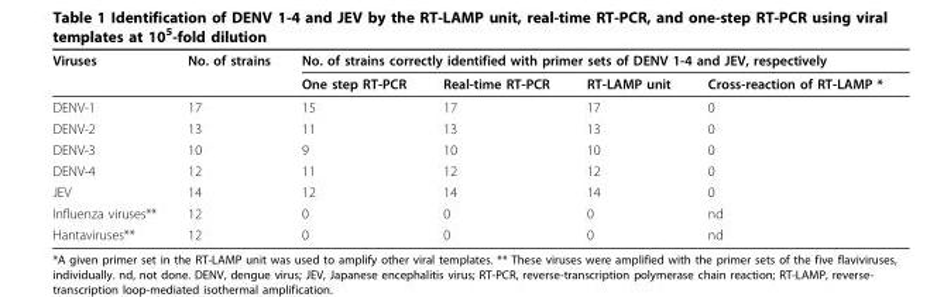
<table><thead><tr><td rowspan="2">Viruses</td><td rowspan="2">No. of strains</td><td colspan="4">No. of strains correctly identified with primer sets of DENV 1-4 and JEV, respectively</td></tr><tr><td>One step RT-PCR</td><td>Real-time RT-PCR</td><td>RT-LAMP unit</td><td>Cross-reaction of RT-LAMP *</td></tr></thead><tbody><tr><td>DENV-1</td><td>17</td><td>15</td><td>17</td><td>17</td><td>0</td></tr><tr><td>DENV-2</td><td>13</td><td>11</td><td>13</td><td>13</td><td>0</td></tr><tr><td>DENV-3</td><td>10</td><td>9</td><td>10</td><td>10</td><td>0</td></tr><tr><td>DENV-4</td><td>12</td><td>11</td><td>12</td><td>12</td><td>0</td></tr><tr><td>JEV</td><td>14</td><td>12</td><td>14</td><td>14</td><td>0</td></tr><tr><td>Influenza viruses**</td><td>12</td><td>0</td><td>0</td><td>0</td><td>nd</td></tr><tr><td>Hantaviruses**</td><td>12</td><td>0</td><td>0</td><td>0</td><td>nd</td></tr></tbody></table>